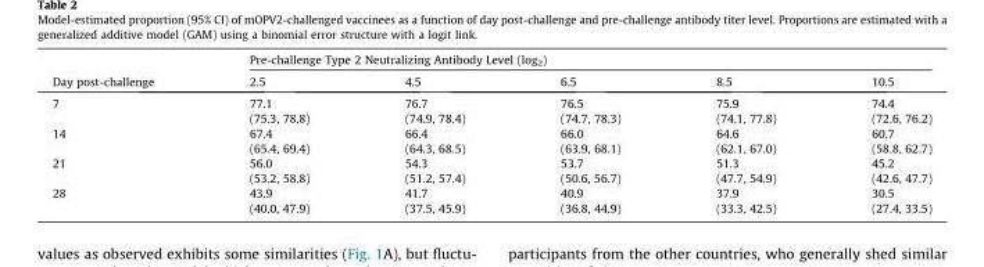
<table><thead><tr><td rowspan="2">Day post-challenge</td><td colspan="5">Pre-challenge Type 2 Neutralizing Antibody Level (log<sub>2</sub>)</td></tr><tr><td>2.5</td><td>4.5</td><td>6.5</td><td>8.5</td><td>10.5</td></tr></thead><tbody><tr><td>7</td><td>77.1 (75.3, 78.8)</td><td>76.7 (74.9, 78.4)</td><td>76.5 (74.7, 78.3)</td><td>75.9 (74.1, 77.8)</td><td>74.4 (72.6, 76.2)</td></tr><tr><td>14</td><td>67.4 (65.4, 69.4)</td><td>66.4 (64.3, 68.5)</td><td>66.0 (63.9, 68.1)</td><td>64.6 (62.1, 67.0)</td><td>60.7 (58.8, 62.7)</td></tr><tr><td>21</td><td>56.0 (53.2, 58.8)</td><td>54.3 (51.2, 57.4)</td><td>53.7 (50.6, 56.7)</td><td>51.3 (47.7, 54.9)</td><td>45.2 (42.6, 47.7)</td></tr><tr><td>28</td><td>43.9 (40.0, 47.9)</td><td>41.7 (37.5, 45.9)</td><td>40.9 (36.8, 44.9)</td><td>37.9 (33.3, 42.5)</td><td>30.5 (27.4, 33.5)</td></tr></tbody></table>